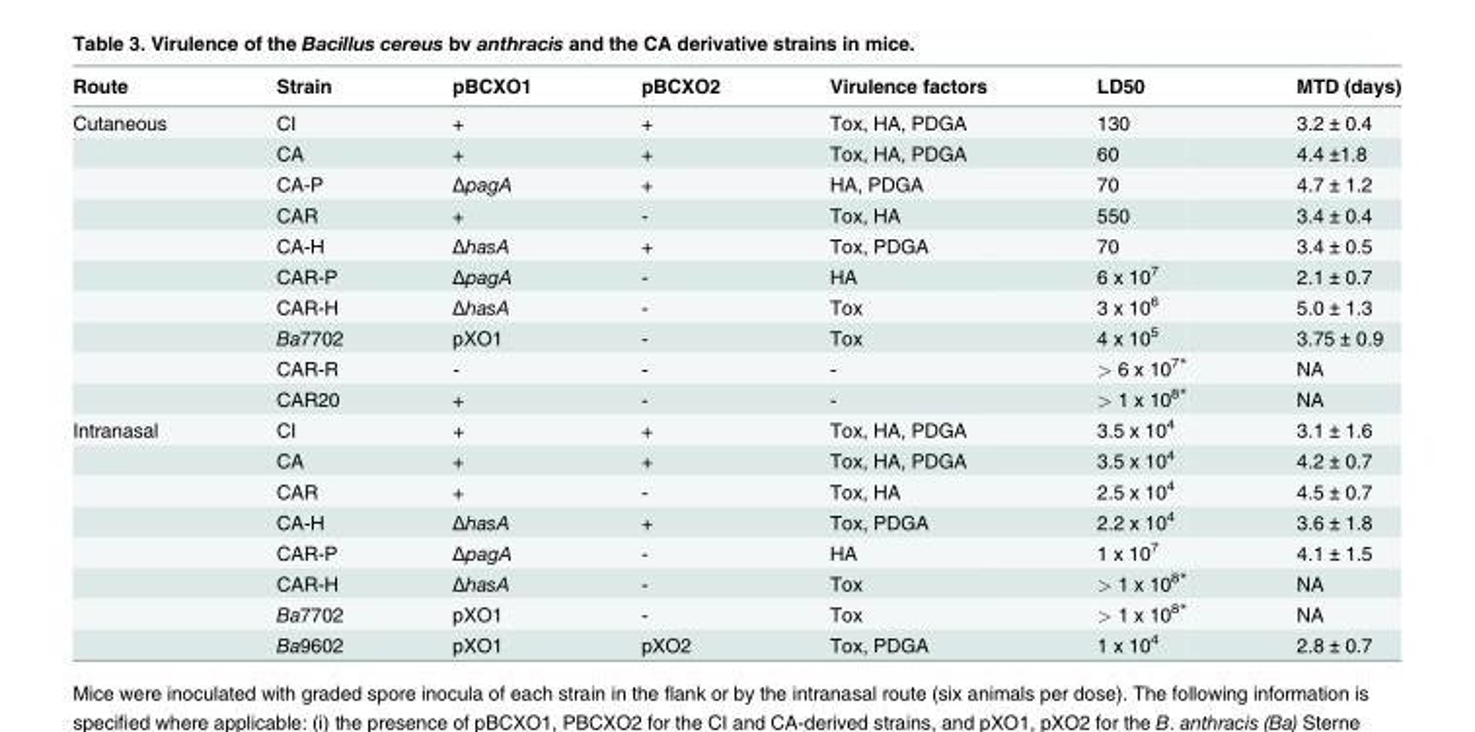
<table><thead><tr><td>Route</td><td>Strain</td><td>pBCXO1</td><td>pBCXO2</td><td>Virulence factors</td><td>LD50</td><td>MTD (days)</td></tr></thead><tbody><tr><td rowspan="10">Cutaneous</td><td>CI</td><td>+</td><td>+</td><td>Tox, HA, PDGA</td><td>130</td><td>3.2 ± 0.4</td></tr><tr><td>CA</td><td>+</td><td>+</td><td>Tox, HA, PDGA</td><td>60</td><td>4.4 ±1.8</td></tr><tr><td>CA-P</td><td>ΔpagA</td><td>+</td><td>HA, PDGA</td><td>70</td><td>4.7 ± 1.2</td></tr><tr><td>CAR</td><td>+</td><td>-</td><td>Tox, HA</td><td>550</td><td>3.4 ± 0.4</td></tr><tr><td>CA-H</td><td>ΔhasA</td><td>+</td><td>Tox, PDGA</td><td>70</td><td>3.4 ± 0.5</td></tr><tr><td>CAR-P</td><td>ΔpagA</td><td>-</td><td>HA</td><td>6 x 10<sup>7</sup></td><td>2.1 ± 0.7</td></tr><tr><td>CAR-H</td><td>ΔhasA</td><td>-</td><td>Tox</td><td>3 x 10<sup>6</sup></td><td>5.0 ± 1.3</td></tr><tr><td>Ba7702</td><td>pXO1</td><td>-</td><td>Tox</td><td>4 x 10<sup>5</sup></td><td>3.75 ± 0.9</td></tr><tr><td>CAR-R</td><td>-</td><td>-</td><td>-</td><td>&gt; 6 x 10<sup>7*</sup></td><td>NA</td></tr><tr><td>CAR20</td><td>+</td><td>-</td><td>-</td><td>&gt; 1 x 10<sup>8*</sup></td><td>NA</td></tr><tr><td rowspan="8">Intranasal</td><td>CI</td><td>+</td><td>+</td><td>Tox, HA, PDGA</td><td>3.5 x 10<sup>4</sup></td><td>3.1 ± 1.6</td></tr><tr><td>CA</td><td>+</td><td>+</td><td>Tox, HA, PDGA</td><td>3.5 x 10<sup>4</sup></td><td>4.2 ± 0.7</td></tr><tr><td>CAR</td><td>+</td><td>-</td><td>Tox, HA</td><td>2.5 x 10<sup>4</sup></td><td>4.5 ± 0.7</td></tr><tr><td>CA-H</td><td>ΔhasA</td><td>+</td><td>Tox, PDGA</td><td>2.2 x 10<sup>4</sup></td><td>3.6 ± 1.8</td></tr><tr><td>CAR-P</td><td>ΔpagA</td><td>-</td><td>HA</td><td>1 x 10<sup>7</sup></td><td>4.1 ± 1.5</td></tr><tr><td>CAR-H</td><td>ΔhasA</td><td>-</td><td>Tox</td><td>&gt; 1 x 10<sup>8*</sup></td><td>NA</td></tr><tr><td>Ba7702</td><td>pXO1</td><td>-</td><td>Tox</td><td>&gt; 1 x 10<sup>8*</sup></td><td>NA</td></tr><tr><td>Ba9602</td><td>pXO1</td><td>pXO2</td><td>Tox, PDGA</td><td>1 x 10<sup>4</sup></td><td>2.8 ± 0.7</td></tr></tbody></table>